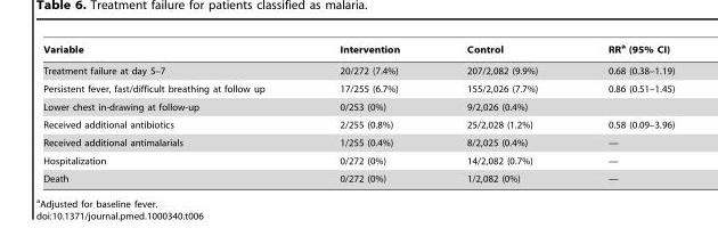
<table><thead><tr><td>Variable</td><td>Intervention</td><td>Control</td><td>RR<sup>a</sup> (95% CI)</td></tr></thead><tbody><tr><td>Treatment failure at day 5–7</td><td>20/272 (7.4%)</td><td>207/2,082 (9.9%)</td><td>0.68 (0.38–1.19)</td></tr><tr><td>Persistent fever, fast/difficult breathing at follow up</td><td>17/255 (6.7%)</td><td>155/2,026 (7.7%)</td><td>0.86 (0.51–1.45)</td></tr><tr><td>Lower chest in-drawing at follow-up</td><td>0/253 (0%)</td><td>9/2,026 (0.4%)</td><td></td></tr><tr><td>Received additional antibiotics</td><td>2/255 (0.8%)</td><td>25/2,028 (1.2%)</td><td>0.58 (0.09–3.96)</td></tr><tr><td>Received additional antimalarials</td><td>1/255 (0.4%)</td><td>8/2,025 (0.4%)</td><td>—</td></tr><tr><td>Hospitalization</td><td>0/272 (0%)</td><td>14/2,082 (0.7%)</td><td>—</td></tr><tr><td>Death</td><td>0/272 (0%)</td><td>1/2,082 (0%)</td><td>—</td></tr></tbody></table>